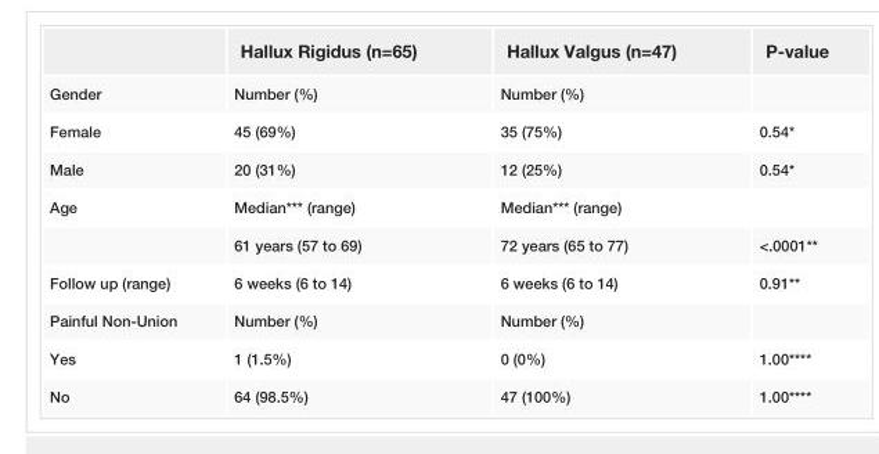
<table><thead><tr><td></td><td>Hallux Rigidus (n=65)</td><td>Hallux Valgus (n=47)</td><td>P-value</td></tr></thead><tbody><tr><td>Gender</td><td>Number (%)</td><td>Number (%)</td><td></td></tr><tr><td>Female</td><td>45 (69%)</td><td>35 (75%)</td><td>0.54*</td></tr><tr><td>Male</td><td>20 (31%)</td><td>12 (25%)</td><td>0.54*</td></tr><tr><td rowspan="2">Age</td><td>Median*** (range)</td><td>Median*** (range)</td><td></td></tr><tr><td>61 years (57 to 69)</td><td>72 years (65 to 77)</td><td>&lt;.0001**</td></tr><tr><td>Follow up (range)</td><td>6 weeks (6 to 14)</td><td>6 weeks (6 to 14)</td><td>0.91**</td></tr><tr><td>Painful Non-Union</td><td>Number (%)</td><td>Number (%)</td><td></td></tr><tr><td>Yes</td><td>1 (1.5%)</td><td>0 (0%)</td><td>1.00****</td></tr><tr><td>No</td><td>64 (98.5%)</td><td>47 (100%)</td><td>1.00****</td></tr></tbody></table>